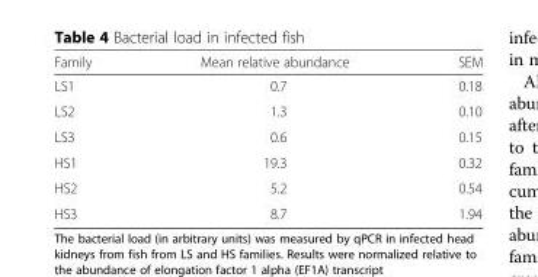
<table><thead><tr><td>Family</td><td>Mean relative abundance</td><td>SEM</td></tr></thead><tbody><tr><td>LS1</td><td>0.7</td><td>0.18</td></tr><tr><td>LS2</td><td>1.3</td><td>0.10</td></tr><tr><td>LS3</td><td>0.6</td><td>0.15</td></tr><tr><td>HS1</td><td>19.3</td><td>0.32</td></tr><tr><td>HS2</td><td>5.2</td><td>0.54</td></tr><tr><td>HS3</td><td>8.7</td><td>1.94</td></tr></tbody></table>